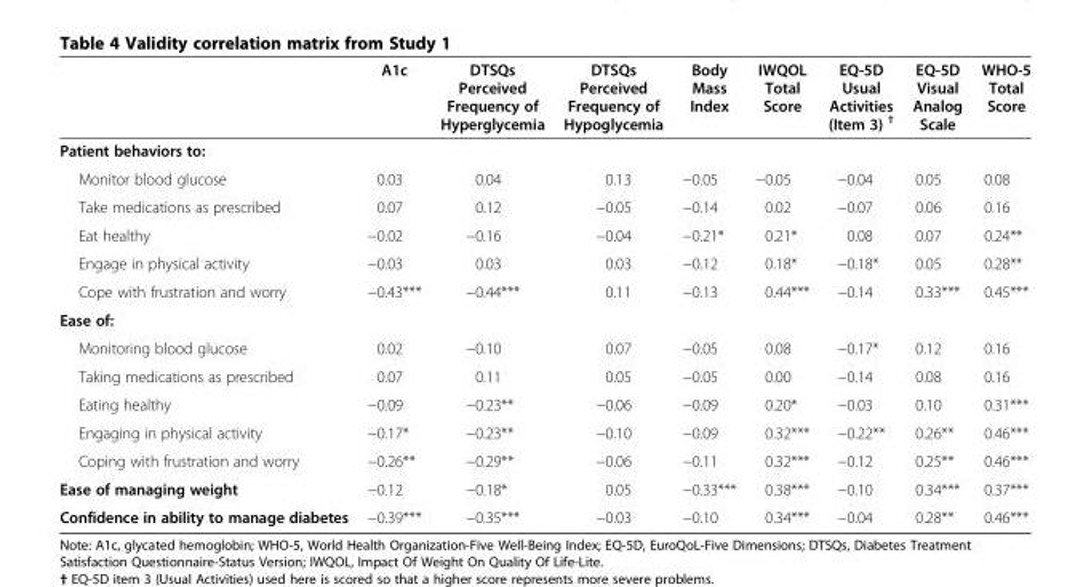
<table><thead><tr><td></td><td>A1c</td><td>DTSQs Perceived Frequency of Hyperglycemia</td><td>DTSQs Perceived Frequency of Hypoglycemia</td><td>Body Mass Index</td><td>IWQOL Total Score</td><td>EQ-5D Usual Activities (Item 3) <sup>†</sup></td><td>EQ-5D Visual Analog Scale</td><td>WHO-5 Total Score</td></tr></thead><tbody><tr><td colspan="9">Patient behaviors to:</td></tr><tr><td>Monitor blood glucose</td><td>0.03</td><td>0.04</td><td>0.13</td><td>−0.05</td><td>−0.05</td><td>−0.04</td><td>0.05</td><td>0.08</td></tr><tr><td>Take medications as prescribed</td><td>0.07</td><td>0.12</td><td>−0.05</td><td>−0.14</td><td>0.02</td><td>−0.07</td><td>0.06</td><td>0.16</td></tr><tr><td>Eat healthy</td><td>−0.02</td><td>−0.16</td><td>−0.04</td><td>−0.21*</td><td>0.21*</td><td>0.08</td><td>0.07</td><td>0.24**</td></tr><tr><td>Engage in physical activity</td><td>−0.03</td><td>0.03</td><td>0.03</td><td>−0.12</td><td>0.18*</td><td>−0.18*</td><td>0.05</td><td>0.28**</td></tr><tr><td>Cope with frustration and worry</td><td>−0.43***</td><td>−0.44***</td><td>0.11</td><td>−0.13</td><td>0.44***</td><td>−0.14</td><td>0.33***</td><td>0.45***</td></tr><tr><td colspan="9">Ease of:</td></tr><tr><td>Monitoring blood glucose</td><td>0.02</td><td>−0.10</td><td>0.07</td><td>−0.05</td><td>0.08</td><td>−0.17*</td><td>0.12</td><td>0.16</td></tr><tr><td>Taking medications as prescribed</td><td>0.07</td><td>0.11</td><td>0.05</td><td>−0.05</td><td>0.00</td><td>−0.14</td><td>0.08</td><td>0.16</td></tr><tr><td>Eating healthy</td><td>−0.09</td><td>−0.23**</td><td>−0.06</td><td>−0.09</td><td>0.20*</td><td>−0.03</td><td>0.10</td><td>0.31***</td></tr><tr><td>Engaging in physical activity</td><td>−0.17*</td><td>−0.23**</td><td>−0.10</td><td>−0.09</td><td>0.32***</td><td>−0.22**</td><td>0.26**</td><td>0.46***</td></tr><tr><td>Coping with frustration and worry</td><td>−0.26**</td><td>−0.29**</td><td>−0.06</td><td>−0.11</td><td>0.32***</td><td>−0.12</td><td>0.25**</td><td>0.46***</td></tr><tr><td>Ease of managing weight</td><td>−0.12</td><td>−0.18*</td><td>0.05</td><td>−0.33***</td><td>0.38***</td><td>−0.10</td><td>0.34***</td><td>0.37***</td></tr><tr><td>Confidence in ability to manage diabetes</td><td>−0.39***</td><td>−0.35***</td><td>−0.03</td><td>−0.10</td><td>0.34***</td><td>−0.04</td><td>0.28**</td><td>0.46***</td></tr></tbody></table>